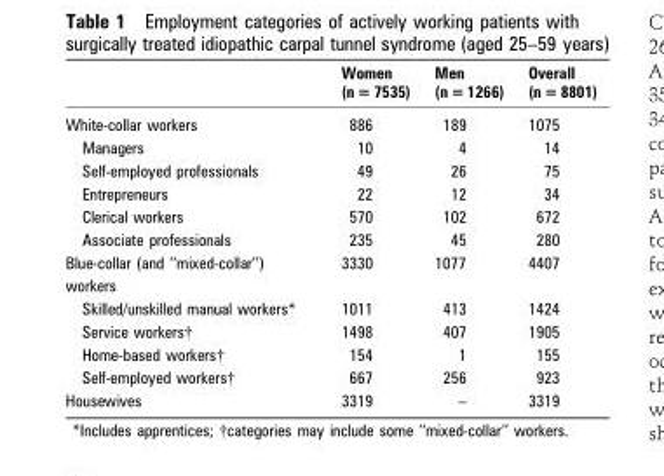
<table><thead><tr><td></td><td>Women (n = 7535)</td><td>Men (n = 1266)</td><td>Overall (n = 8801)</td></tr></thead><tbody><tr><td>White-collar workers</td><td>886</td><td>189</td><td>1075</td></tr><tr><td>Managers</td><td>10</td><td>4</td><td>14</td></tr><tr><td>Self-employed professionals</td><td>49</td><td>26</td><td>75</td></tr><tr><td>Entrepreneurs</td><td>22</td><td>12</td><td>34</td></tr><tr><td>Clerical workers</td><td>570</td><td>102</td><td>672</td></tr><tr><td>Associate professionals</td><td>235</td><td>45</td><td>280</td></tr><tr><td>Blue-collar (and ‘‘mixed-collar’’)</td><td>3330</td><td>1077</td><td>4407</td></tr><tr><td colspan="4">workers</td></tr><tr><td>Skilled/unskilled manual workers*</td><td>1011</td><td>413</td><td>1424</td></tr><tr><td>Service workers†</td><td>1498</td><td>407</td><td>1905</td></tr><tr><td>Home-based workers†</td><td>154</td><td>1</td><td>155</td></tr><tr><td>Self-employed workers†</td><td>667</td><td>256</td><td>923</td></tr><tr><td>Housewives</td><td>3319</td><td>–</td><td>3319</td></tr></tbody></table>